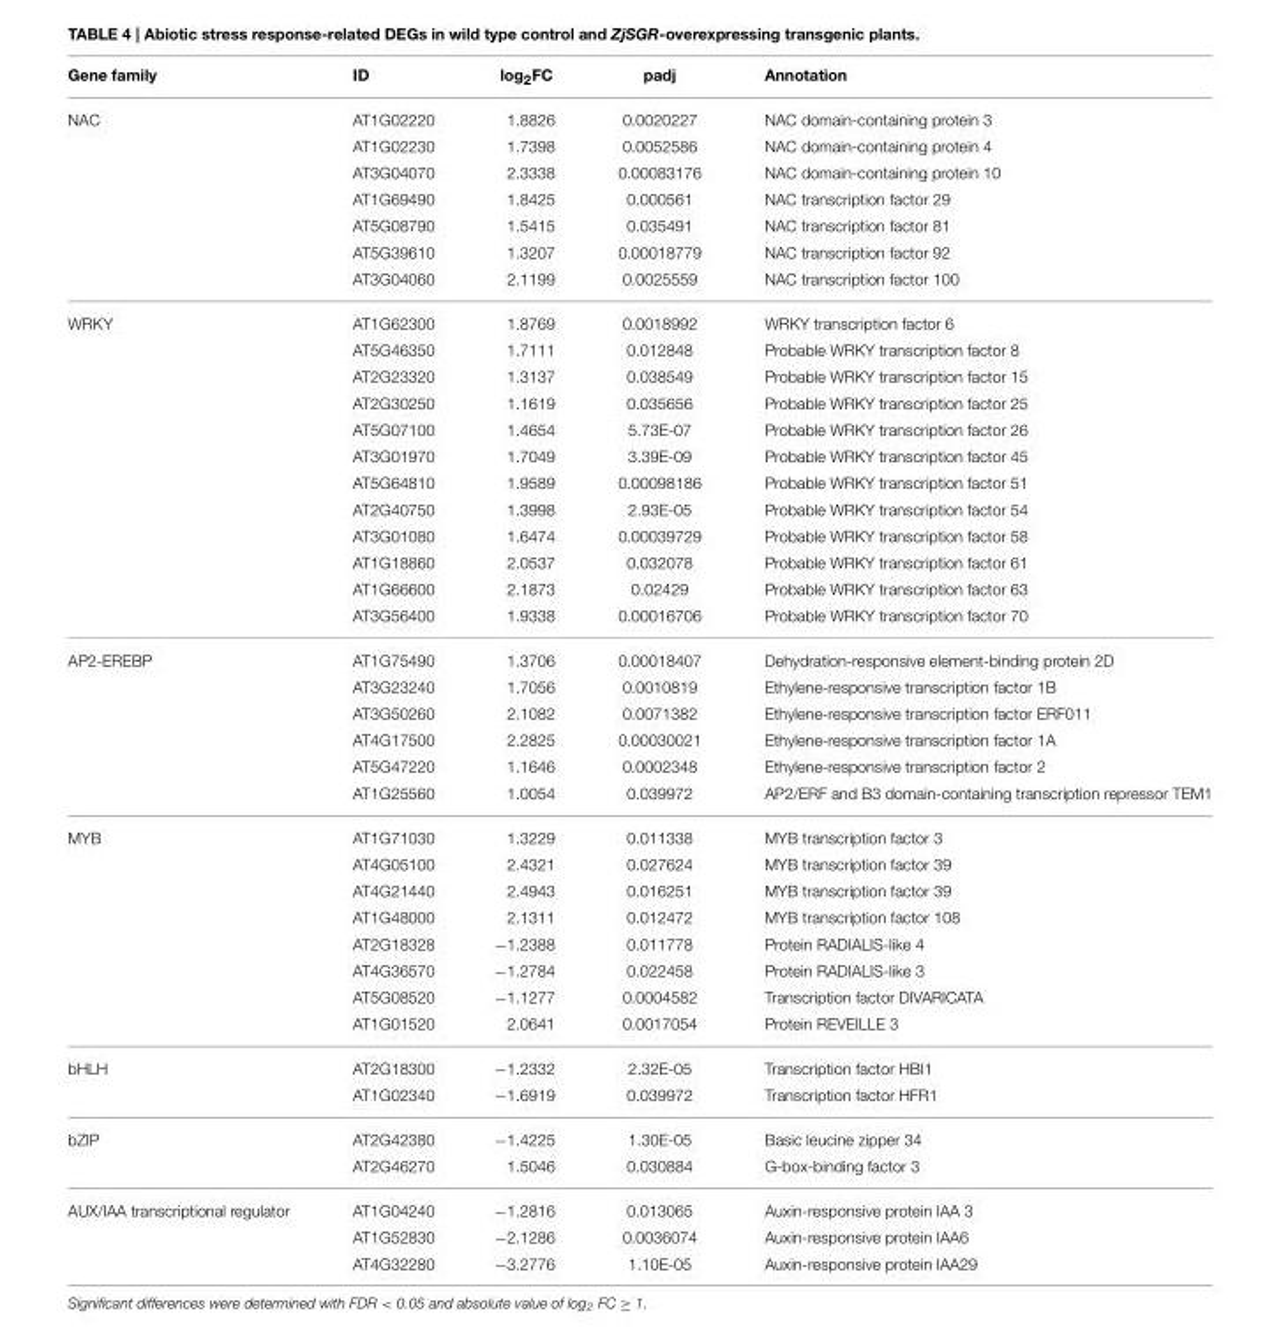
<table><thead><tr><td>Gene family</td><td>ID</td><td>log<sub>2</sub>FC</td><td>padj</td><td>Annotation</td></tr></thead><tbody><tr><td rowspan="7">NAC</td><td>AT1G02220</td><td>1.8826</td><td>0.0020227</td><td>NAC domain-containing protein 3</td></tr><tr><td>AT1G02230</td><td>1.7398</td><td>0.0052586</td><td>NAC domain-containing protein 4</td></tr><tr><td>AT3G04070</td><td>2.3338</td><td>0.00083176</td><td>NAC domain-containing protein 10</td></tr><tr><td>AT1G69490</td><td>1.8425</td><td>0.000561</td><td>NAC transcription factor 29</td></tr><tr><td>AT5G08790</td><td>1.5415</td><td>0.035491</td><td>NAC transcription factor 81</td></tr><tr><td>AT5G39610</td><td>1.3207</td><td>0.00018779</td><td>NAC transcription factor 92</td></tr><tr><td>AT3G04060</td><td>2.1199</td><td>0.0025559</td><td>NAC transcription factor 100</td></tr><tr><td rowspan="12">WRKY</td><td>AT1G62300</td><td>1.8769</td><td>0.0018992</td><td>WRKY transcription factor 6</td></tr><tr><td>AT5G46350</td><td>1.7111</td><td>0.012848</td><td>Probable WRKY transcription factor 8</td></tr><tr><td>AT2G23320</td><td>1.3137</td><td>0.038549</td><td>Probable WRKY transcription factor 15</td></tr><tr><td>AT2G30250</td><td>1.1619</td><td>0.035656</td><td>Probable WRKY transcription factor 25</td></tr><tr><td>AT5G07100</td><td>1.4654</td><td>5.73E-07</td><td>Probable WRKY transcription factor 26</td></tr><tr><td>AT3G01970</td><td>1.7049</td><td>3.39E-09</td><td>Probable WRKY transcription factor 45</td></tr><tr><td>AT5G64810</td><td>1.9589</td><td>0.00098186</td><td>Probable WRKY transcription factor 51</td></tr><tr><td>AT2G40750</td><td>1.3998</td><td>2.93E-05</td><td>Probable WRKY transcription factor 54</td></tr><tr><td>AT3G01080</td><td>1.6474</td><td>0.00039729</td><td>Probable WRKY transcription factor 58</td></tr><tr><td>AT1G18860</td><td>2.0537</td><td>0.032078</td><td>Probable WRKY transcription factor 61</td></tr><tr><td>AT1G66600</td><td>2.1873</td><td>0.02429</td><td>Probable WRKY transcription factor 63</td></tr><tr><td>AT3G56400</td><td>1.9338</td><td>0.00016706</td><td>Probable WRKY transcription factor 70</td></tr><tr><td rowspan="6">AP2-EREBP</td><td>AT1G75490</td><td>1.3706</td><td>0.00018407</td><td>Dehydration-responsive element-binding protein 2D</td></tr><tr><td>AT3G23240</td><td>1.7056</td><td>0.0010819</td><td>Ethylene-responsive transcription factor 1B</td></tr><tr><td>AT3G50260</td><td>2.1082</td><td>0.0071382</td><td>Ethylene-responsive transcription factor ERF011</td></tr><tr><td>AT4G17500</td><td>2.2825</td><td>0.00030021</td><td>Ethylene-responsive transcription factor 1A</td></tr><tr><td>AT5G47220</td><td>1.1646</td><td>0.0002348</td><td>Ethylene-responsive transcription factor 2</td></tr><tr><td>AT1G25560</td><td>1.0054</td><td>0.039972</td><td>AP2/ERF and B3 domain-containing transcription repressor TEM1</td></tr><tr><td rowspan="8">MYB</td><td>AT1G71030</td><td>1.3229</td><td>0.011338</td><td>MYB transcription factor 3</td></tr><tr><td>AT4G05100</td><td>2.4321</td><td>0.027624</td><td>MYB transcription factor 39</td></tr><tr><td>AT4G21440</td><td>2.4943</td><td>0.016251</td><td>MYB transcription factor 39</td></tr><tr><td>AT1G48000</td><td>2.1311</td><td>0.012472</td><td>MYB transcription factor 108</td></tr><tr><td>AT2G18328</td><td>−1.2388</td><td>0.011778</td><td>Protein RADIALIS-like 4</td></tr><tr><td>AT4G36570</td><td>−1.2784</td><td>0.022458</td><td>Protein RADIALIS-like 3</td></tr><tr><td>AT5G08520</td><td>−1.1277</td><td>0.0004582</td><td>Transcription factor DIVARICATA</td></tr><tr><td>AT1G01520</td><td>2.0641</td><td>0.0017054</td><td>Protein REVEILLE 3</td></tr><tr><td rowspan="2">bHLH</td><td>AT2G18300</td><td>−1.2332</td><td>2.32E-05</td><td>Transcription factor HBI1</td></tr><tr><td>AT1G02340</td><td>−1.6919</td><td>0.039972</td><td>Transcription factor HFR1</td></tr><tr><td rowspan="2">bZIP</td><td>AT2G42380</td><td>−1.4225</td><td>1.30E-05</td><td>Basic leucine zipper 34</td></tr><tr><td>AT2G46270</td><td>1.5046</td><td>0.030884</td><td>G-box-binding factor 3</td></tr><tr><td rowspan="3">AUX/IAA transcriptional regulator</td><td>AT1G04240</td><td>−1.2816</td><td>0.013065</td><td>Auxin-responsive protein IAA 3</td></tr><tr><td>AT1G52830</td><td>−2.1286</td><td>0.0036074</td><td>Auxin-responsive protein IAA6</td></tr><tr><td>AT4G32280</td><td>−3.2776</td><td>1.10E-05</td><td>Auxin-responsive protein IAA29</td></tr></tbody></table>